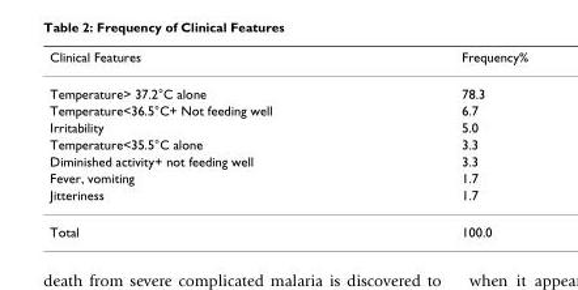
<table><thead><tr><td>Clinical Features</td><td>Frequency%</td></tr></thead><tbody><tr><td>Temperature&gt; 37.2°C alone</td><td>78.3</td></tr><tr><td>Temperature&lt;36.5°C+ Not feeding well</td><td>6.7</td></tr><tr><td>Irritability</td><td>5.0</td></tr><tr><td>Temperature&lt;35.5°C alone</td><td>3.3</td></tr><tr><td>Diminished activity+ not feeding well</td><td>3.3</td></tr><tr><td>Fever, vomiting</td><td>1.7</td></tr><tr><td>Jitteriness</td><td>1.7</td></tr><tr><td>Total</td><td>100.0</td></tr></tbody></table>